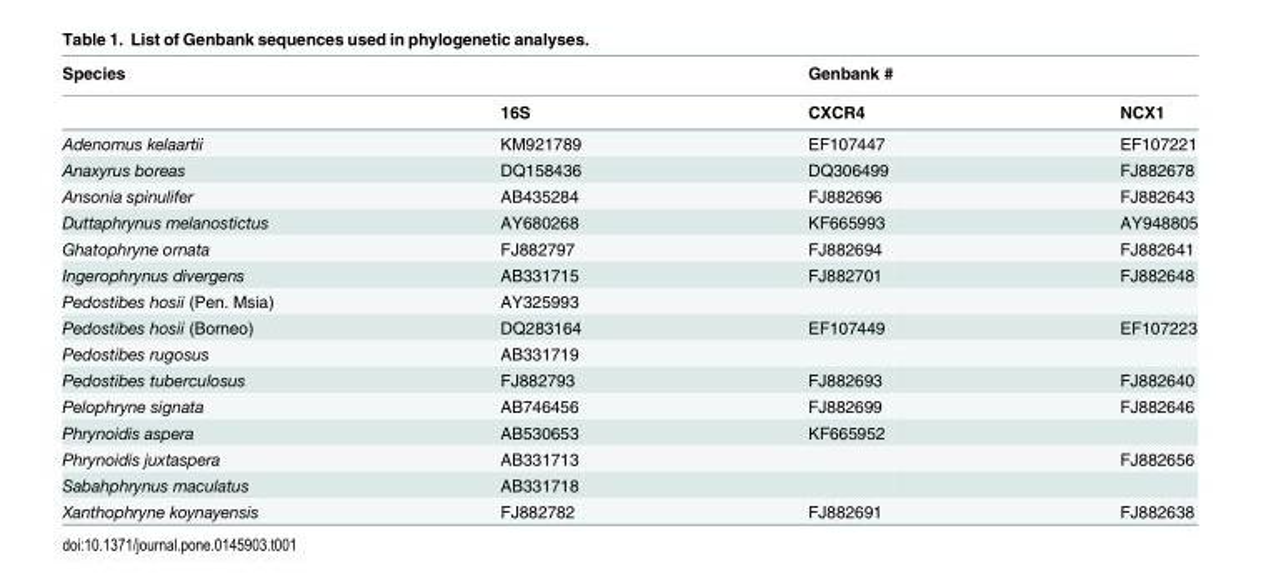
<table><thead><tr><td rowspan="2">Species</td><td rowspan="2">16S</td><td rowspan="2">Genbank # CXCR4</td><td rowspan="2">NCX1</td></tr><tr></tr></thead><tbody><tr><td>Adenomus kelaartii</td><td>KM921789</td><td>EF107447</td><td>EF107221</td></tr><tr><td>Anaxyrus boreas</td><td>DQ158436</td><td>DQ306499</td><td>FJ882678</td></tr><tr><td>Ansonia spinulifer</td><td>AB435284</td><td>FJ882696</td><td>FJ882643</td></tr><tr><td>Duttaphrynus melanostictus</td><td>AY680268</td><td>KF665993</td><td>AY948805</td></tr><tr><td>Ghatophryne ornata</td><td>FJ882797</td><td>FJ882694</td><td>FJ882641</td></tr><tr><td>Ingerophrynus divergens</td><td>AB331715</td><td>FJ882701</td><td>FJ882648</td></tr><tr><td>Pedostibes hosii (Pen. Msia)</td><td>AY325993</td><td></td><td></td></tr><tr><td>Pedostibes hosii (Borneo)</td><td>DQ283164</td><td>EF107449</td><td>EF107223</td></tr><tr><td>Pedostibes rugosus</td><td>AB331719</td><td></td><td></td></tr><tr><td>Pedostibes tuberculosus</td><td>FJ882793</td><td>FJ882693</td><td>FJ882640</td></tr><tr><td>Pelophryne signata</td><td>AB746456</td><td>FJ882699</td><td>FJ882646</td></tr><tr><td>Phrynoidis aspera</td><td>AB530653</td><td>KF665952</td><td></td></tr><tr><td>Phrynoidis juxtaspera</td><td>AB331713</td><td></td><td>FJ882656</td></tr><tr><td>Sabahphrynus maculatus</td><td>AB331718</td><td></td><td></td></tr><tr><td>Xanthophryne koynayensis</td><td>FJ882782</td><td>FJ882691</td><td>FJ882638</td></tr></tbody></table>